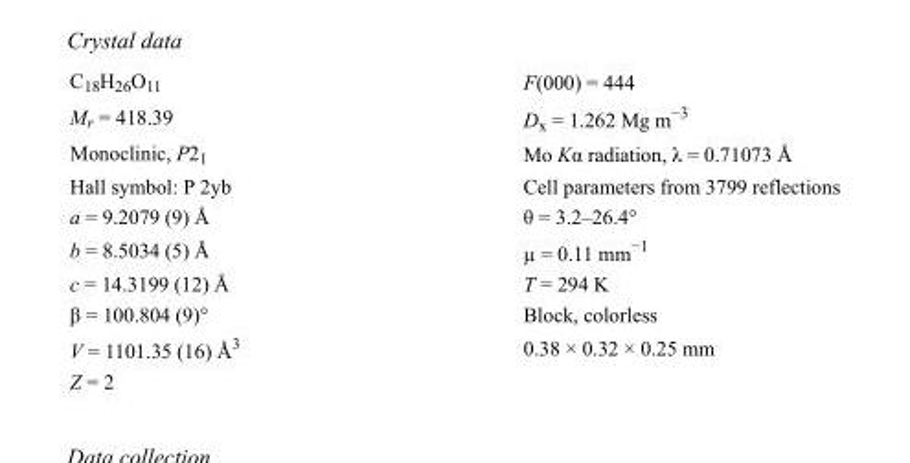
<table><tbody><tr><td>C<sub>18</sub>H<sub>26</sub>O<sub>11</sub></td><td>F(000) = 444</td></tr><tr><td>M<sub>r</sub> = 418.39</td><td>D<sub>x</sub> = 1.262 Mg m<sup>−3</sup></td></tr><tr><td>Monoclinic, P2<sub>1</sub></td><td>Mo Kα radiation, λ = 0.71073 Å</td></tr><tr><td>Hall symbol: P 2yb</td><td>Cell parameters from 3799 reflections</td></tr><tr><td>a = 9.2079 (9) Å</td><td>θ = 3.2–26.4°</td></tr><tr><td>b = 8.5034 (5) Å</td><td>µ = 0.11 mm<sup>−1</sup></td></tr><tr><td>c = 14.3199 (12) Å</td><td>T = 294 K</td></tr><tr><td>β = 100.804 (9)°</td><td>Block, colorless</td></tr><tr><td>V = 1101.35 (16) Å<sup>3</sup></td><td>0.38 × 0.32 × 0.25 mm</td></tr><tr><td>Z = 2</td><td></td></tr></tbody></table>